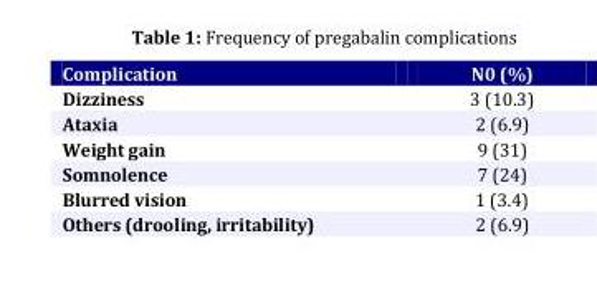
<table><thead><tr><td>Complication</td><td>N0 (%)</td></tr></thead><tbody><tr><td>Dizziness</td><td>3 (10.3)</td></tr><tr><td>Ataxia</td><td>2 (6.9)</td></tr><tr><td>Weight gain</td><td>9 (31)</td></tr><tr><td>Somnolence</td><td>7 (24)</td></tr><tr><td>Blurred vision</td><td>1 (3.4)</td></tr><tr><td>Others (drooling, irritability)</td><td>2 (6.9)</td></tr></tbody></table>